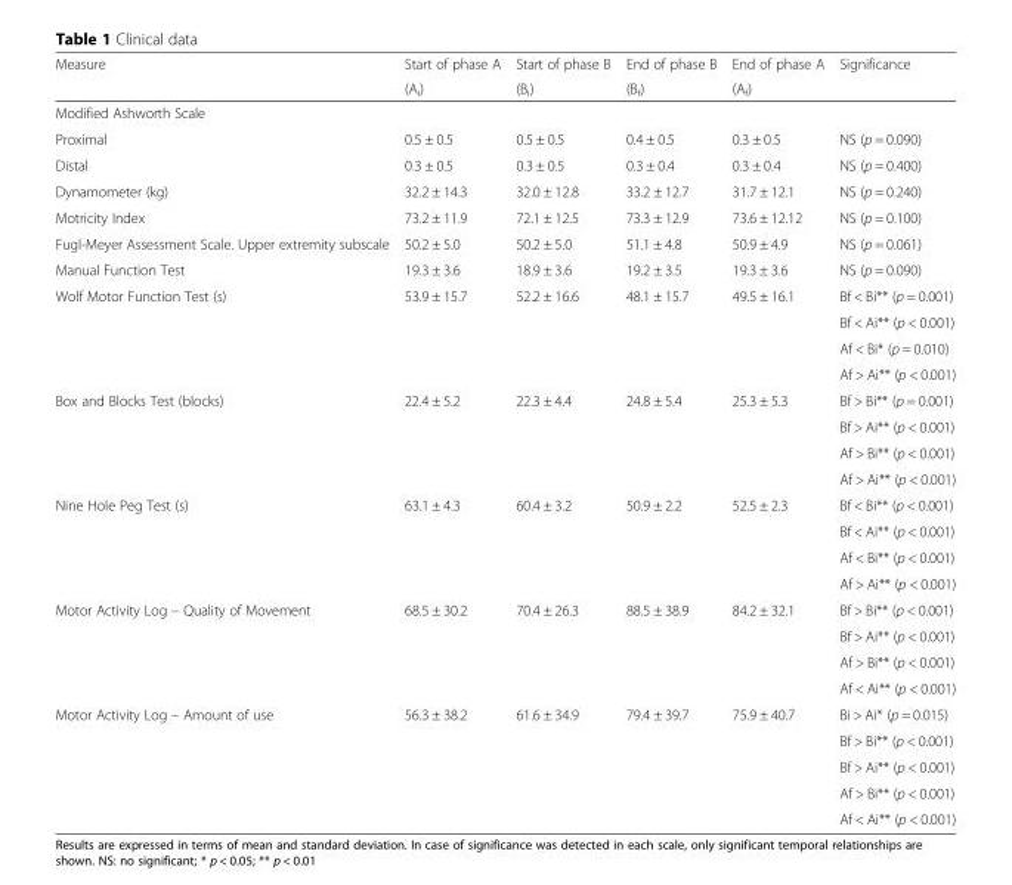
<table><thead><tr><td rowspan="2">Measure</td><td rowspan="2">Start of phase A (A<sub>i</sub>)</td><td rowspan="2">Start of phase B (B<sub>i</sub>)</td><td rowspan="2">End of phase B (B<sub>f</sub>)</td><td rowspan="2">End of phase A (A<sub>f</sub>)</td><td rowspan="2">Significance</td></tr><tr></tr></thead><tbody><tr><td colspan="6">Modified Ashworth Scale</td></tr><tr><td>Proximal</td><td>0.5 ± 0.5</td><td>0.5 ± 0.5</td><td>0.4 ± 0.5</td><td>0.3 ± 0.5</td><td>NS (p = 0.090)</td></tr><tr><td>Distal</td><td>0.3 ± 0.5</td><td>0.3 ± 0.5</td><td>0.3 ± 0.4</td><td>0.3 ± 0.4</td><td>NS (p = 0.400)</td></tr><tr><td>Dynamometer (kg)</td><td>32.2 ± 14.3</td><td>32.0 ± 12.8</td><td>33.2 ± 12.7</td><td>31.7 ± 12.1</td><td>NS (p = 0.240)</td></tr><tr><td>Motricity Index</td><td>73.2 ± 11.9</td><td>72.1 ± 12.5</td><td>73.3 ± 12.9</td><td>73.6 ± 12.12</td><td>NS (p = 0.100)</td></tr><tr><td>Fugl-Meyer Assessment Scale. Upper extremity subscale</td><td>50.2 ± 5.0</td><td>50.2 ± 5.0</td><td>51.1 ± 4.8</td><td>50.9 ± 4.9</td><td>NS (p = 0.061)</td></tr><tr><td>Manual Function Test</td><td>19.3 ± 3.6</td><td>18.9 ± 3.6</td><td>19.2 ± 3.5</td><td>19.3 ± 3.6</td><td>NS (p = 0.090)</td></tr><tr><td rowspan="4">Wolf Motor Function Test (s)</td><td rowspan="4">53.9 ± 15.7</td><td rowspan="4">52.2 ± 16.6</td><td rowspan="4">48.1 ± 15.7</td><td rowspan="4">49.5 ± 16.1</td><td>Bf &lt; Bi** (p = 0.001)</td></tr><tr><td>Bf &lt; Ai** (p &lt; 0.001)</td></tr><tr><td>Af &lt; Bi* (p = 0.010)</td></tr><tr><td>Af &gt; Ai** (p &lt; 0.001)</td></tr><tr><td rowspan="4">Box and Blocks Test (blocks)</td><td rowspan="4">22.4 ± 5.2</td><td rowspan="4">22.3 ± 4.4</td><td rowspan="4">24.8 ± 5.4</td><td rowspan="4">25.3 ± 5.3</td><td>Bf &gt; Bi** (p = 0.001)</td></tr><tr><td>Bf &gt; Ai** (p &lt; 0.001)</td></tr><tr><td>Af &gt; Bi** (p &lt; 0.001)</td></tr><tr><td>Af &gt; Ai** (p &lt; 0.001)</td></tr><tr><td rowspan="4">Nine Hole Peg Test (s)</td><td rowspan="4">63.1 ± 4.3</td><td rowspan="4">60.4 ± 3.2</td><td rowspan="4">50.9 ± 2.2</td><td rowspan="4">52.5 ± 2.3</td><td>Bf &lt; Bi** (p &lt; 0.001)</td></tr><tr><td>Bf &lt; Ai** (p &lt; 0.001)</td></tr><tr><td>Af &lt; Bi** (p &lt; 0.001)</td></tr><tr><td>Af &gt; Ai** (p &lt; 0.001)</td></tr><tr><td rowspan="4">Motor Activity Log – Quality of Movement</td><td rowspan="4">68.5 ± 30.2</td><td rowspan="4">70.4 ± 26.3</td><td rowspan="4">88.5 ± 38.9</td><td rowspan="4">84.2 ± 32.1</td><td>Bf &gt; Bi** (p &lt; 0.001)</td></tr><tr><td>Bf &gt; Ai** (p &lt; 0.001)</td></tr><tr><td>Af &gt; Bi** (p &lt; 0.001)</td></tr><tr><td>Af &lt; Ai** (p &lt; 0.001)</td></tr><tr><td rowspan="5">Motor Activity Log – Amount of use</td><td rowspan="5">56.3 ± 38.2</td><td rowspan="5">61.6 ± 34.9</td><td rowspan="5">79.4 ± 39.7</td><td rowspan="5">75.9 ± 40.7</td><td>Bi &gt; Ai* (p = 0.015)</td></tr><tr><td>Bf &gt; Bi** (p &lt; 0.001)</td></tr><tr><td>Bf &gt; Ai** (p &lt; 0.001)</td></tr><tr><td>Af &gt; Bi** (p &lt; 0.001)</td></tr><tr><td>Af &lt; Ai** (p &lt; 0.001)</td></tr></tbody></table>